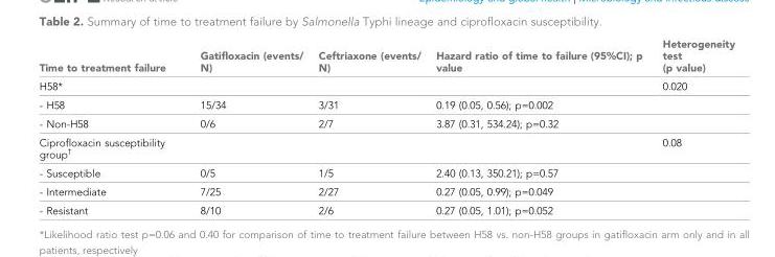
<table><thead><tr><td>Time to treatment failure</td><td>Gatifloxacin (events/ N)</td><td>Ceftriaxone (events/ N)</td><td>Hazard ratio of time to failure (95%CI); p value</td><td>Heterogeneity test (p value)</td></tr></thead><tbody><tr><td>H58*</td><td></td><td></td><td></td><td>0.020</td></tr><tr><td>- H58</td><td>15/34</td><td>3/31</td><td>0.19 (0.05, 0.56); p=0.002</td><td></td></tr><tr><td>- Non-H58</td><td>0/6</td><td>2/7</td><td>3.87 (0.31, 534.24); p=0.32</td><td></td></tr><tr><td>Ciprofloxacin susceptibility group<sup>†</sup></td><td></td><td></td><td></td><td>0.08</td></tr><tr><td>- Susceptible</td><td>0/5</td><td>1/5</td><td>2.40 (0.13, 350.21); p=0.57</td><td></td></tr><tr><td>- Intermediate</td><td>7/25</td><td>2/27</td><td>0.27 (0.05, 0.99); p=0.049</td><td></td></tr><tr><td>- Resistant</td><td>8/10</td><td>2/6</td><td>0.27 (0.05, 1.01); p=0.052</td><td></td></tr></tbody></table>